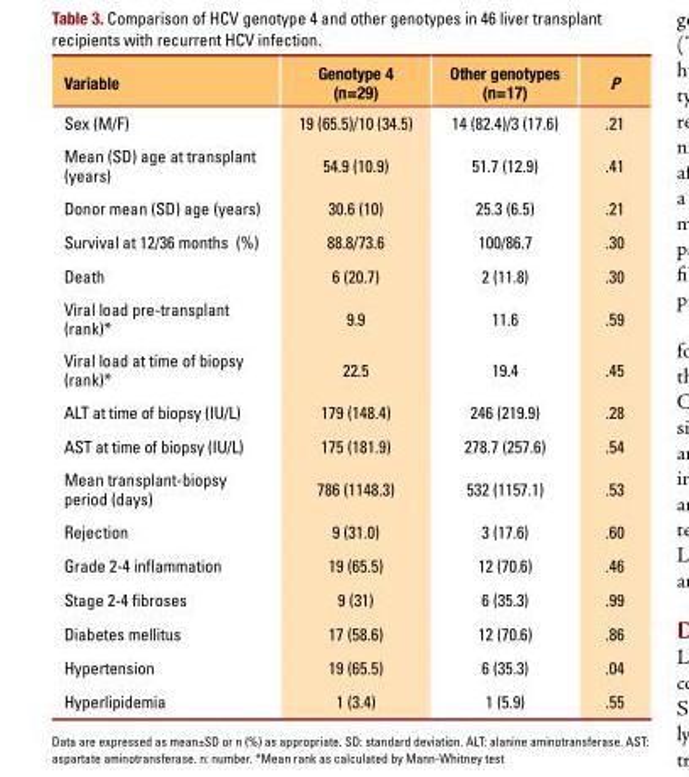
<table><thead><tr><td>Variable</td><td>Genotype 4 (n=29)</td><td>Other genotypes (n=17)</td><td>P</td></tr></thead><tbody><tr><td>Sex (M/F)</td><td>19 (65.5)/10 (34.5)</td><td>14 (82.4)/3 (17.6)</td><td>.21</td></tr><tr><td>Mean (SD) age at transplant (years)</td><td>54.9 (10.9)</td><td>51.7 (12.9)</td><td>.41</td></tr><tr><td>Donor mean (SD) age (years)</td><td>30.6 (10)</td><td>25.3 (6.5)</td><td>.21</td></tr><tr><td>Survival at 12/36 months (%)</td><td>88.8/73.6</td><td>100/86.7</td><td>.30</td></tr><tr><td>Death</td><td>6 (20.7)</td><td>2 (11.8)</td><td>.30</td></tr><tr><td>viral load pre-transplant (rank)*</td><td>9.9</td><td>11.6</td><td>.59</td></tr><tr><td>viral load at time of biopsy (rank)*</td><td>22.5</td><td>19.4</td><td>.45</td></tr><tr><td>ALt at time of biopsy (IU/L)</td><td>179 (148.4)</td><td>246 (219.9)</td><td>.28</td></tr><tr><td>ASt at time of biopsy (IU/L)</td><td>175 (181.9)</td><td>278.7 (257.6)</td><td>.54</td></tr><tr><td>Mean transplant-biopsy period (days)</td><td>786 (1148.3)</td><td>532 (1157.1)</td><td>.53</td></tr><tr><td>Rejection</td><td>9 (31.0)</td><td>3 (17.6)</td><td>.60</td></tr><tr><td>grade 2-4 inflammation</td><td>19 (65.5)</td><td>12 (70.6)</td><td>.46</td></tr><tr><td>Stage 2-4 fibroses</td><td>9 (31)</td><td>6 (35.3)</td><td>.99</td></tr><tr><td>Diabetes mellitus</td><td>17 (58.6)</td><td>12 (70.6)</td><td>.86</td></tr><tr><td>hypertension</td><td>19 (65.5)</td><td>6 (35.3)</td><td>.04</td></tr><tr><td>hyperlipidemia</td><td>1 (3.4)</td><td>1 (5.9)</td><td>.55</td></tr></tbody></table>